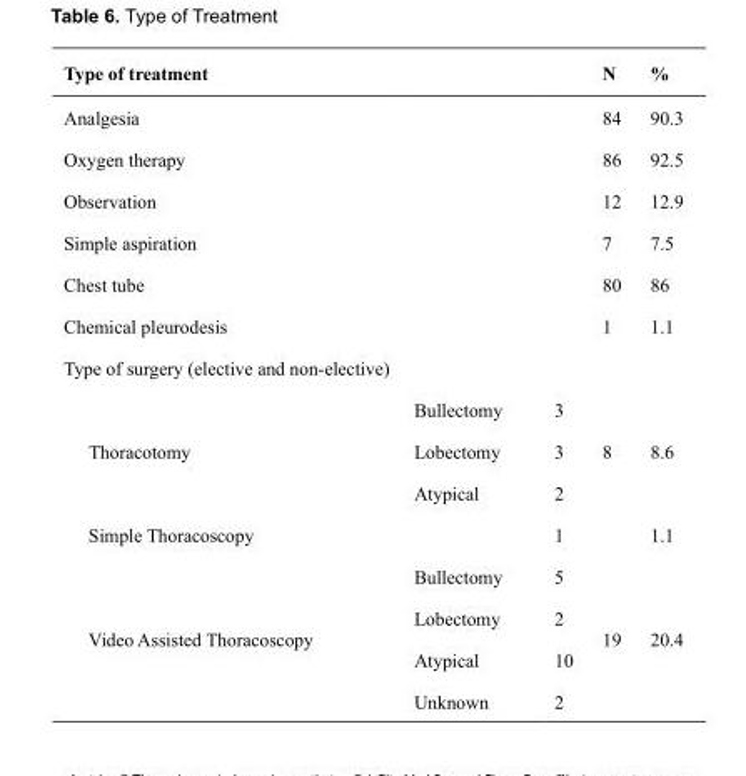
<table><thead><tr><td colspan="3">Type of treatment</td><td>N</td><td>%</td></tr></thead><tbody><tr><td colspan="3">Analgesia</td><td>84</td><td>90.3</td></tr><tr><td colspan="3">Oxygen therapy</td><td>86</td><td>92.5</td></tr><tr><td colspan="3">Observation</td><td>12</td><td>12.9</td></tr><tr><td colspan="3">Simple aspiration</td><td>7</td><td>7.5</td></tr><tr><td colspan="3">Chest tube</td><td>80</td><td>86</td></tr><tr><td colspan="3">Chemical pleurodesis</td><td>1</td><td>1.1</td></tr><tr><td colspan="5">Type of surgery (elective and non-elective)</td></tr><tr><td rowspan="3">Thoracotomy</td><td>Bullectomy</td><td>3</td><td rowspan="3">8</td><td rowspan="3">8.6</td></tr><tr><td>Lobectomy</td><td>3</td></tr><tr><td>Atypical</td><td>2</td></tr><tr><td colspan="2">Simple Thoracoscopy</td><td>1</td><td></td><td>1.1</td></tr><tr><td rowspan="4">Video Assisted Thoracoscopy</td><td>Bullectomy</td><td>5</td><td rowspan="4">19</td><td rowspan="4">20.4</td></tr><tr><td>Lobectomy</td><td>2</td></tr><tr><td>Atypical</td><td>10</td></tr><tr><td>Unknown</td><td>2</td></tr></tbody></table>